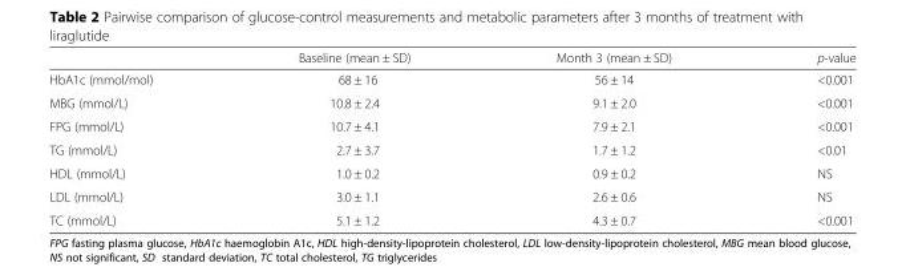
<table><thead><tr><td></td><td>Baseline (mean ± SD)</td><td>Month 3 (mean ± SD)</td><td>p-value</td></tr></thead><tbody><tr><td>HbA1c (mmol/mol)</td><td>68 ± 16</td><td>56 ± 14</td><td>&lt;0.001</td></tr><tr><td>MBG (mmol/L)</td><td>10.8 ± 2.4</td><td>9.1 ± 2.0</td><td>&lt;0.001</td></tr><tr><td>FPG (mmol/L)</td><td>10.7 ± 4.1</td><td>7.9 ± 2.1</td><td>&lt;0.001</td></tr><tr><td>TG (mmol/L)</td><td>2.7 ± 3.7</td><td>1.7 ± 1.2</td><td>&lt;0.01</td></tr><tr><td>HDL (mmol/L)</td><td>1.0 ± 0.2</td><td>0.9 ± 0.2</td><td>NS</td></tr><tr><td>LDL (mmol/L)</td><td>3.0 ± 1.1</td><td>2.6 ± 0.6</td><td>NS</td></tr><tr><td>TC (mmol/L)</td><td>5.1 ± 1.2</td><td>4.3 ± 0.7</td><td>&lt;0.001</td></tr></tbody></table>